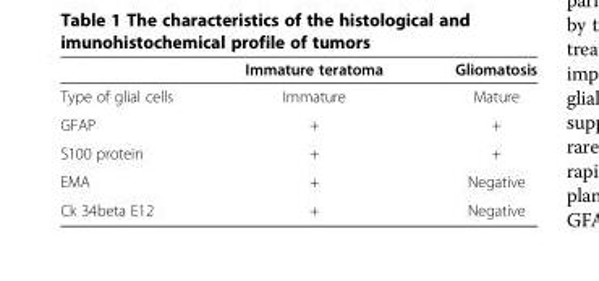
<table><thead><tr><td></td><td>Immature teratoma</td><td>Gliomatosis</td></tr></thead><tbody><tr><td>Type of glial cells</td><td>Immature</td><td>Mature</td></tr><tr><td>GFAP</td><td>+</td><td>+</td></tr><tr><td>S100 protein</td><td>+</td><td>+</td></tr><tr><td>EMA</td><td>+</td><td>Negative</td></tr><tr><td>Ck 34beta E12</td><td>+</td><td>Negative</td></tr></tbody></table>